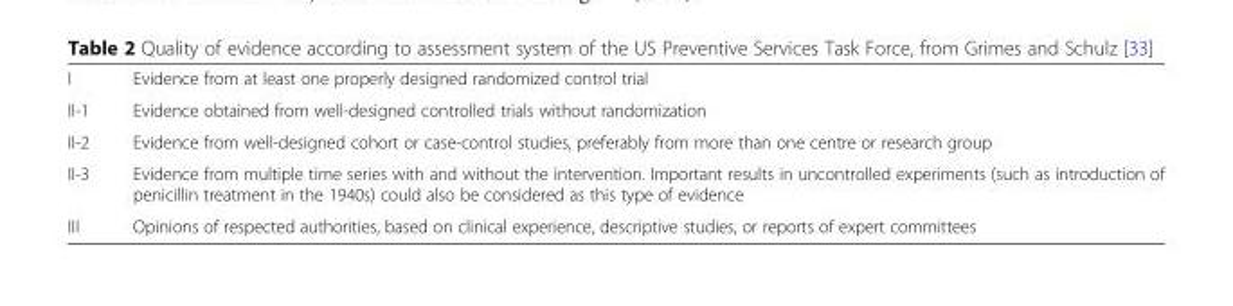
<table><tbody><tr><td>I</td><td>Evidence from at least one properly designed randomized control trial</td></tr><tr><td>II-1</td><td>Evidence obtained from well-designed controlled trials without randomization</td></tr><tr><td>II-2</td><td>Evidence from well-designed cohort or case-control studies, preferably from more than one centre or research group</td></tr><tr><td>II-3</td><td>Evidence from multiple time series with and without the intervention. Important results in uncontrolled experiments (such as introduction of penicillin treatment in the 1940s) could also be considered as this type of evidence</td></tr><tr><td>III</td><td>Opinions of respected authorities, based on clinical experience, descriptive studies, or reports of expert committees</td></tr></tbody></table>